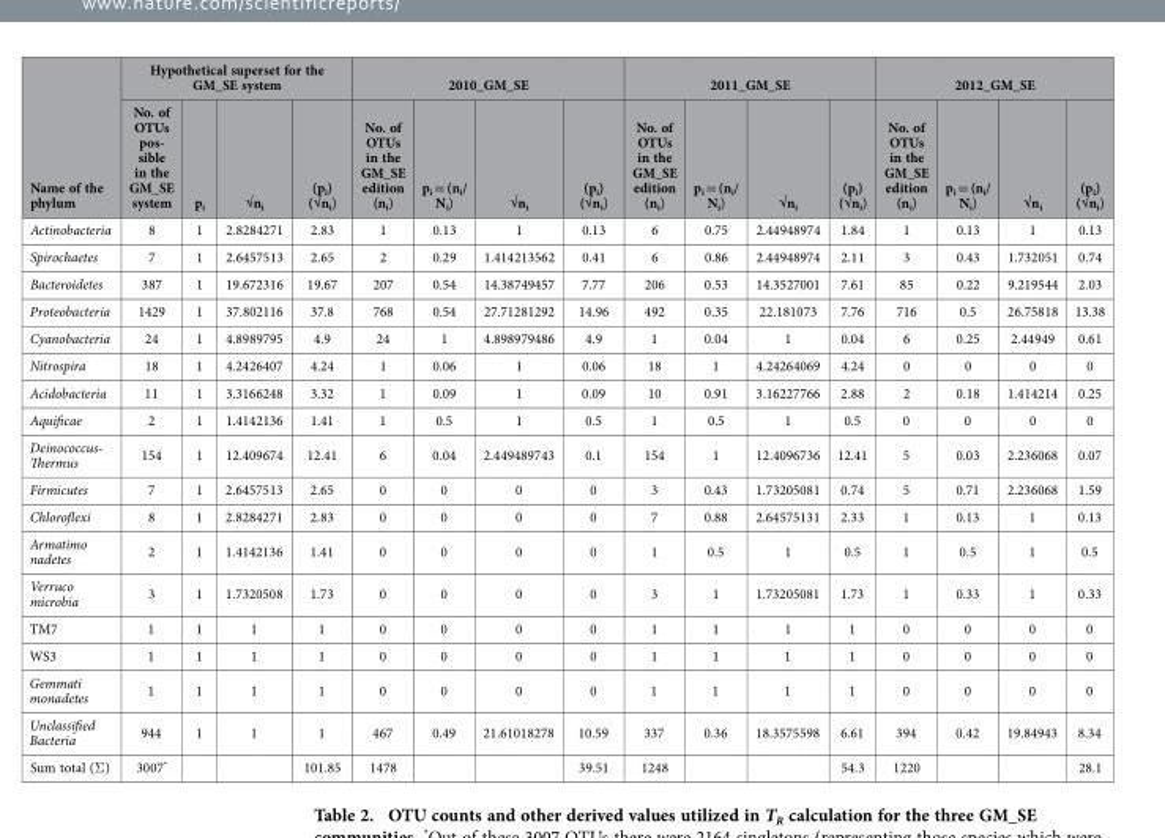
<table><thead><tr><td rowspan="2">Name of the phylum</td><td colspan="4">Hypothetical superset for the GM_SE system</td><td colspan="4">2010_GM_SE</td><td colspan="4">2011_GM_SE</td><td colspan="4">2012_GM_SE</td></tr><tr><td>No. of OTUs pos- sible in the GM_SE system</td><td>p<sub>i</sub></td><td>√n<sub>i</sub></td><td>(p<sub>i</sub>) (√n<sub>i</sub>)</td><td>No. of OTUs in the GM_SE edition (n<sub>i</sub>)</td><td>p<sub>i</sub> = (n<sub>i</sub>/ N<sub>i</sub>)</td><td>√n<sub>i</sub></td><td>(p<sub>i</sub>) (√n<sub>i</sub>)</td><td>No. of OTUs in the GM_SE edition (n<sub>i</sub>)</td><td>p<sub>i</sub> = (n<sub>i</sub>/ N<sub>i</sub>)</td><td>√n<sub>i</sub></td><td>(p<sub>i</sub>) (√n<sub>i</sub>)</td><td>No. of OTUs in the GM_SE edition (n<sub>i</sub>)</td><td>p<sub>i</sub> = (n<sub>i</sub>/ N<sub>i</sub>)</td><td>√n<sub>i</sub></td><td>(p<sub>i</sub>) (√n<sub>i</sub>)</td></tr></thead><tbody><tr><td>Actinobacteria</td><td>8</td><td>1</td><td>2.8284271</td><td>2.83</td><td>1</td><td>0.13</td><td>1</td><td>0.13</td><td>6</td><td>0.75</td><td>2.44948974</td><td>1.84</td><td>1</td><td>0.13</td><td>1</td><td>0.13</td></tr><tr><td>Spirochaetes</td><td>7</td><td>1</td><td>2.6457513</td><td>2.65</td><td>2</td><td>0.29</td><td>1.414213562</td><td>0.41</td><td>6</td><td>0.86</td><td>2.44948974</td><td>2.11</td><td>3</td><td>0.43</td><td>1.732051</td><td>0.74</td></tr><tr><td>Bacteroidetes</td><td>387</td><td>1</td><td>19.672316</td><td>19.67</td><td>207</td><td>0.54</td><td>14.38749457</td><td>7.77</td><td>206</td><td>0.53</td><td>14.3527001</td><td>7.61</td><td>85</td><td>0.22</td><td>9.219544</td><td>2.03</td></tr><tr><td>Proteobacteria</td><td>1429</td><td>1</td><td>37.802116</td><td>37.8</td><td>768</td><td>0.54</td><td>27.71281292</td><td>14.96</td><td>492</td><td>0.35</td><td>22.181073</td><td>7.76</td><td>716</td><td>0.5</td><td>26.75818</td><td>13.38</td></tr><tr><td>Cyanobacteria</td><td>24</td><td>1</td><td>4.8989795</td><td>4.9</td><td>24</td><td>1</td><td>4.898979486</td><td>4.9</td><td>1</td><td>0.04</td><td>1</td><td>0.04</td><td>6</td><td>0.25</td><td>2.44949</td><td>0.61</td></tr><tr><td>Nitrospira</td><td>18</td><td>1</td><td>4.2426407</td><td>4.24</td><td>1</td><td>0.06</td><td>1</td><td>0.06</td><td>18</td><td>1</td><td>4.24264069</td><td>4.24</td><td>0</td><td>0</td><td>0</td><td>0</td></tr><tr><td>Acidobacteria</td><td>11</td><td>1</td><td>3.3166248</td><td>3.32</td><td>1</td><td>0.09</td><td>1</td><td>0.09</td><td>10</td><td>0.91</td><td>3.16227766</td><td>2.88</td><td>2</td><td>0.18</td><td>1.414214</td><td>0.25</td></tr><tr><td>Aquificae</td><td>2</td><td>1</td><td>1.4142136</td><td>1.41</td><td>1</td><td>0.5</td><td>1</td><td>0.5</td><td>1</td><td>0.5</td><td>1</td><td>0.5</td><td>0</td><td>0</td><td>0</td><td>0</td></tr><tr><td>Deinococcus- Thermus</td><td>154</td><td>1</td><td>12.409674</td><td>12.41</td><td>6</td><td>0.04</td><td>2.449489743</td><td>0.1</td><td>154</td><td>1</td><td>12.4096736</td><td>12.41</td><td>5</td><td>0.03</td><td>2.236068</td><td>0.07</td></tr><tr><td>Firmicutes</td><td>7</td><td>1</td><td>2.6457513</td><td>2.65</td><td>0</td><td>0</td><td>0</td><td>0</td><td>3</td><td>0.43</td><td>1.73205081</td><td>0.74</td><td>5</td><td>0.71</td><td>2.236068</td><td>1.59</td></tr><tr><td>Chloroflexi</td><td>8</td><td>1</td><td>2.8284271</td><td>2.83</td><td>0</td><td>0</td><td>0</td><td>0</td><td>7</td><td>0.88</td><td>2.64575131</td><td>2.33</td><td>1</td><td>0.13</td><td>1</td><td>0.13</td></tr><tr><td>Armatimo nadetes</td><td>2</td><td>1</td><td>1.4142136</td><td>1.41</td><td>0</td><td>0</td><td>0</td><td>0</td><td>1</td><td>0.5</td><td>1</td><td>0.5</td><td>1</td><td>0.5</td><td>1</td><td>0.5</td></tr><tr><td>Verruco microbia</td><td>3</td><td>1</td><td>1.7320508</td><td>1.73</td><td>0</td><td>0</td><td>0</td><td>0</td><td>3</td><td>1</td><td>1.73205081</td><td>1.73</td><td>1</td><td>0.33</td><td>1</td><td>0.33</td></tr><tr><td>TM7</td><td>1</td><td>1</td><td>1</td><td>1</td><td>0</td><td>0</td><td>0</td><td>0</td><td>1</td><td>1</td><td>1</td><td>1</td><td>0</td><td>0</td><td>0</td><td>0</td></tr><tr><td>WS3</td><td>1</td><td>1</td><td>1</td><td>1</td><td>0</td><td>0</td><td>0</td><td>0</td><td>1</td><td>1</td><td>1</td><td>1</td><td>0</td><td>0</td><td>0</td><td>0</td></tr><tr><td>Gemmati monadetes</td><td>1</td><td>1</td><td>1</td><td>1</td><td>0</td><td>0</td><td>0</td><td>0</td><td>1</td><td>1</td><td>1</td><td>1</td><td>0</td><td>0</td><td>0</td><td>0</td></tr><tr><td>Unclassified Bacteria</td><td>944</td><td>1</td><td>1</td><td>1</td><td>467</td><td>0.49</td><td>21.61018278</td><td>10.59</td><td>337</td><td>0.36</td><td>18.3575598</td><td>6.61</td><td>394</td><td>0.42</td><td>19.84943</td><td>8.34</td></tr><tr><td>Sum total (Σ )</td><td>3007*</td><td></td><td></td><td>101.85</td><td>1478</td><td></td><td></td><td>39.51</td><td>1248</td><td></td><td></td><td>54.3</td><td>1220</td><td></td><td></td><td>28.1</td></tr></tbody></table>